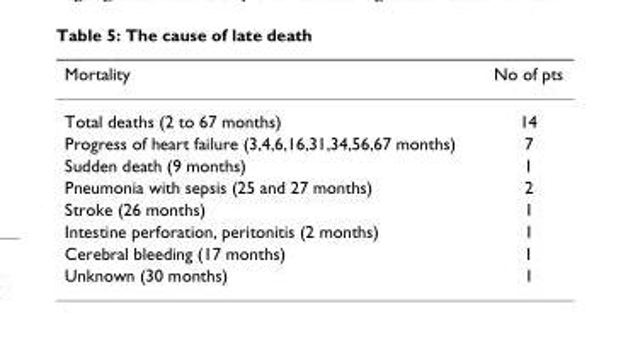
<table><thead><tr><td>Mortality</td><td>No of pts</td></tr></thead><tbody><tr><td>Total deaths (2 to 67 months)</td><td>14</td></tr><tr><td>Progress of heart failure (3,4,6,16,31,34,56,67 months)</td><td>7</td></tr><tr><td>Sudden death (9 months)</td><td>1</td></tr><tr><td>Pneumonia with sepsis (25 and 27 months)</td><td>2</td></tr><tr><td>Stroke (26 months)</td><td>1</td></tr><tr><td>Intestine perforation, peritonitis (2 months)</td><td>1</td></tr><tr><td>Cerebral bleeding (17 months)</td><td>1</td></tr><tr><td>Unknown (30 months)</td><td>1</td></tr></tbody></table>